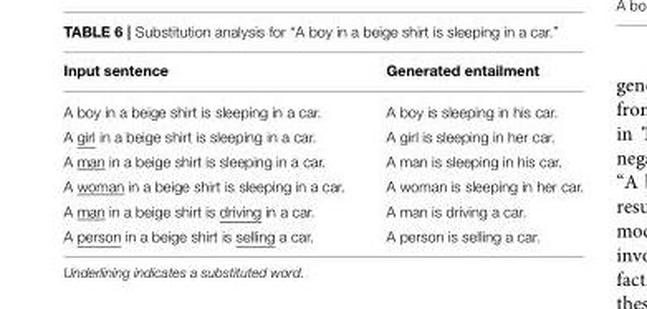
<table><thead><tr><td>Input sentence</td><td>Generated entailment</td></tr></thead><tbody><tr><td>A boy in a beige shirt is sleeping in a car.</td><td>A boy is sleeping in his car.</td></tr><tr><td>A girl in a beige shirt is sleeping in a car.</td><td>A girl is sleeping in her car.</td></tr><tr><td>A man in a beige shirt is sleeping in a car.</td><td>A man is sleeping in his car.</td></tr><tr><td>A woman in a beige shirt is sleeping in a car.</td><td>A woman is sleeping in her car.</td></tr><tr><td>A man in a beige shirt is driving in a car.</td><td>A man is driving a car.</td></tr><tr><td>A person in a beige shirt is selling a car.</td><td>A person is selling a car.</td></tr></tbody></table>